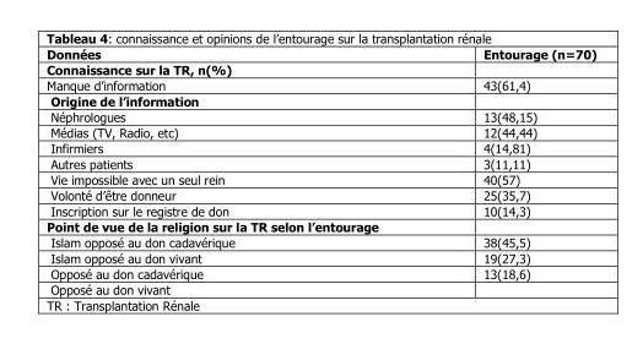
<table><thead><tr><td>Données</td><td>Entourage (n=70)</td></tr></thead><tbody><tr><td colspan="2">Connaissance sur la TR, n(%)</td></tr><tr><td>Manque d’information</td><td>43(61,4)</td></tr><tr><td colspan="2">Origine de l’information</td></tr><tr><td>Néphrologues</td><td>13(48,15)</td></tr><tr><td>Médias (TV, Radio, etc)</td><td>12(44,44)</td></tr><tr><td>Infirmiers</td><td>4(14,81)</td></tr><tr><td>Autres patients</td><td>3(11,11)</td></tr><tr><td>Vie impossible avec un seul rein</td><td>40(57)</td></tr><tr><td>Volonté d’être donneur</td><td>25(35,7)</td></tr><tr><td>Inscription sur le registre de don</td><td>10(14,3)</td></tr><tr><td colspan="2">Point de vue de la religion sur la TR selon l’entourage</td></tr><tr><td>Islam opposé au don cadavérique</td><td>38(45,5)</td></tr><tr><td>Islam opposé au don vivant</td><td>19(27,3)</td></tr><tr><td>Opposé au don cadavérique</td><td>13(18,6)</td></tr><tr><td>Opposé au don vivant</td><td></td></tr></tbody></table>